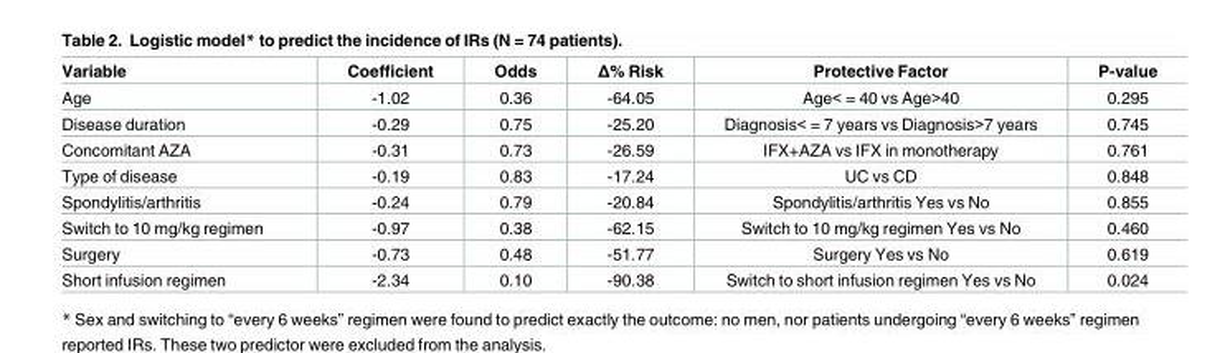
<table><thead><tr><td>Variable</td><td>Coefficient</td><td>Odds</td><td>Δ% Risk</td><td>Protective Factor</td><td>P-value</td></tr></thead><tbody><tr><td>Age</td><td>-1.02</td><td>0.36</td><td>-64.05</td><td>Age&lt; = 40 vs Age&gt;40</td><td>0.295</td></tr><tr><td>Disease duration</td><td>-0.29</td><td>0.75</td><td>-25.20</td><td>Diagnosis&lt; = 7 years vs Diagnosis&gt;7 years</td><td>0.745</td></tr><tr><td>Concomitant AZA</td><td>-0.31</td><td>0.73</td><td>-26.59</td><td>IFX+AZA vs IFX in monotherapy</td><td>0.761</td></tr><tr><td>Type of disease</td><td>-0.19</td><td>0.83</td><td>-17.24</td><td>UC vs CD</td><td>0.848</td></tr><tr><td>Spondylitis/arthritis</td><td>-0.24</td><td>0.79</td><td>-20.84</td><td>Spondylitis/arthritis Yes vs No</td><td>0.855</td></tr><tr><td>Switch to 10 mg/kg regimen</td><td>-0.97</td><td>0.38</td><td>-62.15</td><td>Switch to 10 mg/kg regimen Yes vs No</td><td>0.460</td></tr><tr><td>Surgery</td><td>-0.73</td><td>0.48</td><td>-51.77</td><td>Surgery Yes vs No</td><td>0.619</td></tr><tr><td>Short infusion regimen</td><td>-2.34</td><td>0.10</td><td>-90.38</td><td>Switch to short infusion regimen Yes vs No</td><td>0.024</td></tr></tbody></table>